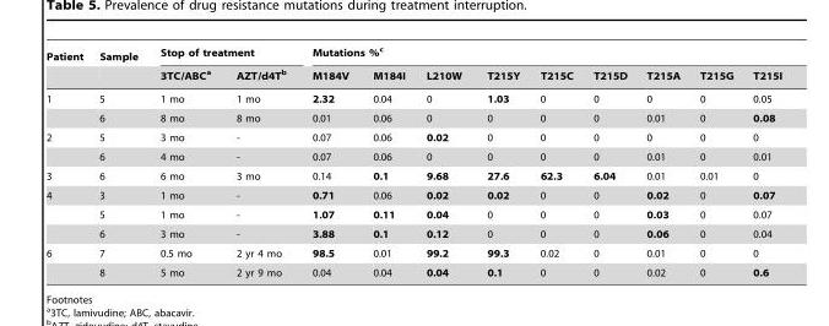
<table><thead><tr><td rowspan="2">Patient</td><td rowspan="2">Sample</td><td colspan="2">Stop of treatment</td><td colspan="9">Mutations %<sup>c</sup></td></tr><tr><td>3TC/ABC<sup>a</sup></td><td>AZT/d4T<sup>b</sup></td><td>M184V</td><td>M184I</td><td>L210W</td><td>T215Y</td><td>T215C</td><td>T215D</td><td>T215A</td><td>T215G</td><td>T215I</td></tr></thead><tbody><tr><td rowspan="2">1</td><td>5</td><td>1 mo</td><td>1 mo</td><td>2.32</td><td>0.04</td><td>0</td><td>1.03</td><td>0</td><td>0</td><td>0</td><td>0</td><td>0.05</td></tr><tr><td>6</td><td>8 mo</td><td>8 mo</td><td>0.01</td><td>0.06</td><td>0</td><td>0</td><td>0</td><td>0</td><td>0.01</td><td>0</td><td>0.08</td></tr><tr><td rowspan="2">2</td><td>5</td><td>3 mo</td><td>-</td><td>0.07</td><td>0.06</td><td>0.02</td><td>0</td><td>0</td><td>0</td><td>0</td><td>0</td><td>0</td></tr><tr><td>6</td><td>4 mo</td><td>-</td><td>0.07</td><td>0.06</td><td>0</td><td>0</td><td>0</td><td>0</td><td>0.01</td><td>0</td><td>0.01</td></tr><tr><td>3</td><td>6</td><td>6 mo</td><td>3 mo</td><td>0.14</td><td>0.1</td><td>9.68</td><td>27.6</td><td>62.3</td><td>6.04</td><td>0.01</td><td>0.01</td><td>0</td></tr><tr><td rowspan="3">4</td><td>3</td><td>1 mo</td><td>-</td><td>0.71</td><td>0.06</td><td>0.02</td><td>0.02</td><td>0</td><td>0</td><td>0.02</td><td>0</td><td>0.07</td></tr><tr><td>5</td><td>1 mo</td><td>-</td><td>1.07</td><td>0.11</td><td>0.04</td><td>0</td><td>0</td><td>0</td><td>0.03</td><td>0</td><td>0.07</td></tr><tr><td>6</td><td>3 mo</td><td>-</td><td>3.88</td><td>0.1</td><td>0.12</td><td>0</td><td>0</td><td>0</td><td>0.06</td><td>0</td><td>0.04</td></tr><tr><td rowspan="2">6</td><td>7</td><td>0.5 mo</td><td>2 yr 4 mo</td><td>98.5</td><td>0.01</td><td>99.2</td><td>99.3</td><td>0.02</td><td>0</td><td>0.01</td><td>0</td><td>0</td></tr><tr><td>8</td><td>5 mo</td><td>2 yr 9 mo</td><td>0.04</td><td>0.04</td><td>0.04</td><td>0.1</td><td>0</td><td>0</td><td>0.02</td><td>0</td><td>0.6</td></tr></tbody></table>